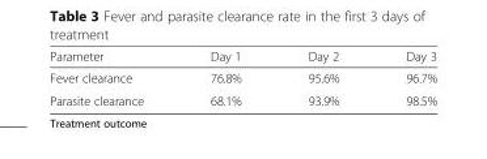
<table><thead><tr><td>Parameter</td><td>Day 1</td><td>Day 2</td><td>Day 3</td></tr></thead><tbody><tr><td>Fever clearance</td><td>76.8%</td><td>95.6%</td><td>96.7%</td></tr><tr><td>Parasite clearance</td><td>68.1%</td><td>93.9%</td><td>98.5%</td></tr></tbody></table>